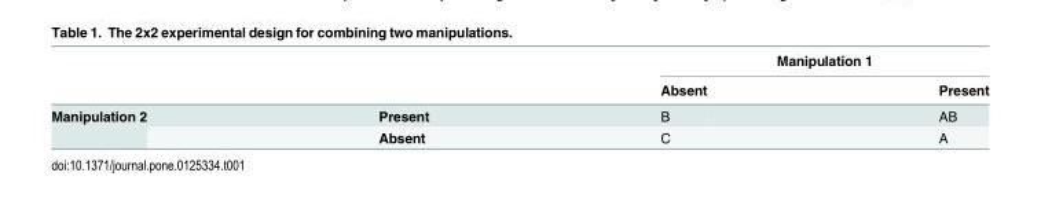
<table><thead><tr><td rowspan="2"></td><td rowspan="2"></td><td colspan="2">Manipulation 1</td></tr><tr><td>Absent</td><td>Present</td></tr></thead><tbody><tr><td rowspan="2">Manipulation 2</td><td>Present</td><td>B</td><td>AB</td></tr><tr><td>Absent</td><td>C</td><td>A</td></tr></tbody></table>